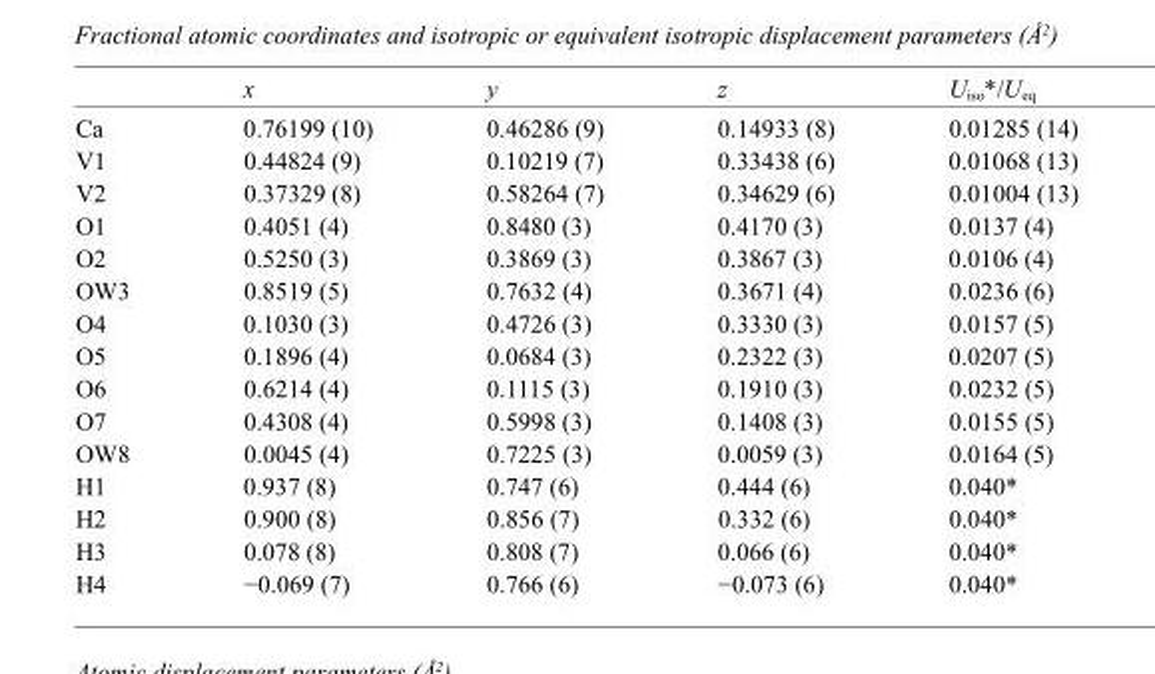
<table><thead><tr><td></td><td>x</td><td>y</td><td>z</td><td>U<sub>iso</sub>*/U<sub>eq</sub></td></tr></thead><tbody><tr><td>Ca</td><td>0.76199 (10)</td><td>0.46286 (9)</td><td>0.14933 (8)</td><td>0.01285 (14)</td></tr><tr><td>V1</td><td>0.44824 (9)</td><td>0.10219 (7)</td><td>0.33438 (6)</td><td>0.01068 (13)</td></tr><tr><td>V2</td><td>0.37329 (8)</td><td>0.58264 (7)</td><td>0.34629 (6)</td><td>0.01004 (13)</td></tr><tr><td>O1</td><td>0.4051 (4)</td><td>0.8480 (3)</td><td>0.4170 (3)</td><td>0.0137 (4)</td></tr><tr><td>O2</td><td>0.5250 (3)</td><td>0.3869 (3)</td><td>0.3867 (3)</td><td>0.0106 (4)</td></tr><tr><td>OW3</td><td>0.8519 (5)</td><td>0.7632 (4)</td><td>0.3671 (4)</td><td>0.0236 (6)</td></tr><tr><td>O4</td><td>0.1030 (3)</td><td>0.4726 (3)</td><td>0.3330 (3)</td><td>0.0157 (5)</td></tr><tr><td>O5</td><td>0.1896 (4)</td><td>0.0684 (3)</td><td>0.2322 (3)</td><td>0.0207 (5)</td></tr><tr><td>O6</td><td>0.6214 (4)</td><td>0.1115 (3)</td><td>0.1910 (3)</td><td>0.0232 (5)</td></tr><tr><td>O7</td><td>0.4308 (4)</td><td>0.5998 (3)</td><td>0.1408 (3)</td><td>0.0155 (5)</td></tr><tr><td>OW8</td><td>0.0045 (4)</td><td>0.7225 (3)</td><td>0.0059 (3)</td><td>0.0164 (5)</td></tr><tr><td>H1</td><td>0.937 (8)</td><td>0.747 (6)</td><td>0.444 (6)</td><td>0.040*</td></tr><tr><td>H2</td><td>0.900 (8)</td><td>0.856 (7)</td><td>0.332 (6)</td><td>0.040*</td></tr><tr><td>H3</td><td>0.078 (8)</td><td>0.808 (7)</td><td>0.066 (6)</td><td>0.040*</td></tr><tr><td>H4</td><td>−0.069 (7)</td><td>0.766 (6)</td><td>−0.073 (6)</td><td>0.040*</td></tr></tbody></table>